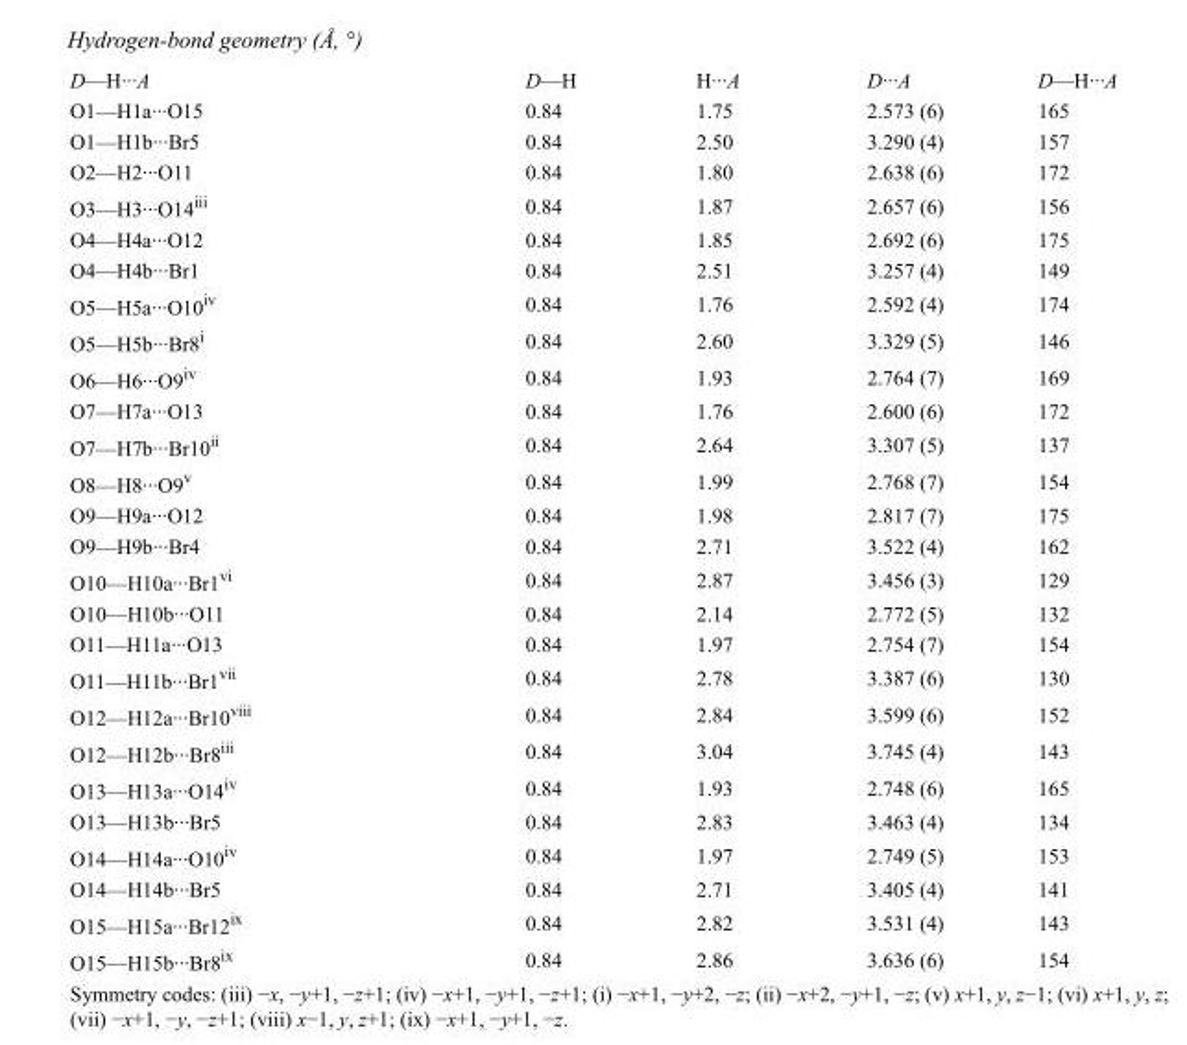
<table><tbody><tr><td>D—H···A</td><td>D—H</td><td>H···A</td><td>D···A</td><td>D—H···A</td></tr><tr><td>O1—H1a···O15</td><td>0.84</td><td>1.75</td><td>2.573 (6)</td><td>165</td></tr><tr><td>O1—H1b···Br5</td><td>0.84</td><td>2.50</td><td>3.290 (4)</td><td>157</td></tr><tr><td>O2—H2···O11</td><td>0.84</td><td>1.80</td><td>2.638 (6)</td><td>172</td></tr><tr><td>O3—H3···O14<sup>iii</sup></td><td>0.84</td><td>1.87</td><td>2.657 (6)</td><td>156</td></tr><tr><td>O4—H4a···O12</td><td>0.84</td><td>1.85</td><td>2.692 (6)</td><td>175</td></tr><tr><td>O4—H4b···Br1</td><td>0.84</td><td>2.51</td><td>3.257 (4)</td><td>149</td></tr><tr><td>O5—H5a···O10<sup>iv</sup></td><td>0.84</td><td>1.76</td><td>2.592 (4)</td><td>174</td></tr><tr><td>O5—H5b···Br8<sup>i</sup></td><td>0.84</td><td>2.60</td><td>3.329 (5)</td><td>146</td></tr><tr><td>O6—H6···O9<sup>iv</sup></td><td>0.84</td><td>1.93</td><td>2.764 (7)</td><td>169</td></tr><tr><td>O7—H7a···O13</td><td>0.84</td><td>1.76</td><td>2.600 (6)</td><td>172</td></tr><tr><td>O7—H7b···Br10<sup>ii</sup></td><td>0.84</td><td>2.64</td><td>3.307 (5)</td><td>137</td></tr><tr><td>O8—H8···O9<sup>v</sup></td><td>0.84</td><td>1.99</td><td>2.768 (7)</td><td>154</td></tr><tr><td>O9—H9a···O12</td><td>0.84</td><td>1.98</td><td>2.817 (7)</td><td>175</td></tr><tr><td>O9—H9b···Br4</td><td>0.84</td><td>2.71</td><td>3.522 (4)</td><td>162</td></tr><tr><td>O10—H10a···Br1<sup>vi</sup></td><td>0.84</td><td>2.87</td><td>3.456 (3)</td><td>129</td></tr><tr><td>O10—H10b···O11</td><td>0.84</td><td>2.14</td><td>2.772 (5)</td><td>132</td></tr><tr><td>O11—H11a···O13</td><td>0.84</td><td>1.97</td><td>2.754 (7)</td><td>154</td></tr><tr><td>O11—H11b···Br1<sup>vii</sup></td><td>0.84</td><td>2.78</td><td>3.387 (6)</td><td>130</td></tr><tr><td>O12—H12a···Br10<sup>viii</sup></td><td>0.84</td><td>2.84</td><td>3.599 (6)</td><td>152</td></tr><tr><td>O12—H12b···Br8<sup>iii</sup></td><td>0.84</td><td>3.04</td><td>3.745 (4)</td><td>143</td></tr><tr><td>O13—H13a···O14<sup>iv</sup></td><td>0.84</td><td>1.93</td><td>2.748 (6)</td><td>165</td></tr><tr><td>O13—H13b···Br5</td><td>0.84</td><td>2.83</td><td>3.463 (4)</td><td>134</td></tr><tr><td>O14—H14a···O10<sup>iv</sup></td><td>0.84</td><td>1.97</td><td>2.749 (5)</td><td>153</td></tr><tr><td>O14—H14b···Br5</td><td>0.84</td><td>2.71</td><td>3.405 (4)</td><td>141</td></tr><tr><td>O15—H15a···Br12<sup>ix</sup></td><td>0.84</td><td>2.82</td><td>3.531 (4)</td><td>143</td></tr><tr><td>O15—H15b···Br8<sup>ix</sup></td><td>0.84</td><td>2.86</td><td>3.636 (6)</td><td>154</td></tr></tbody></table>